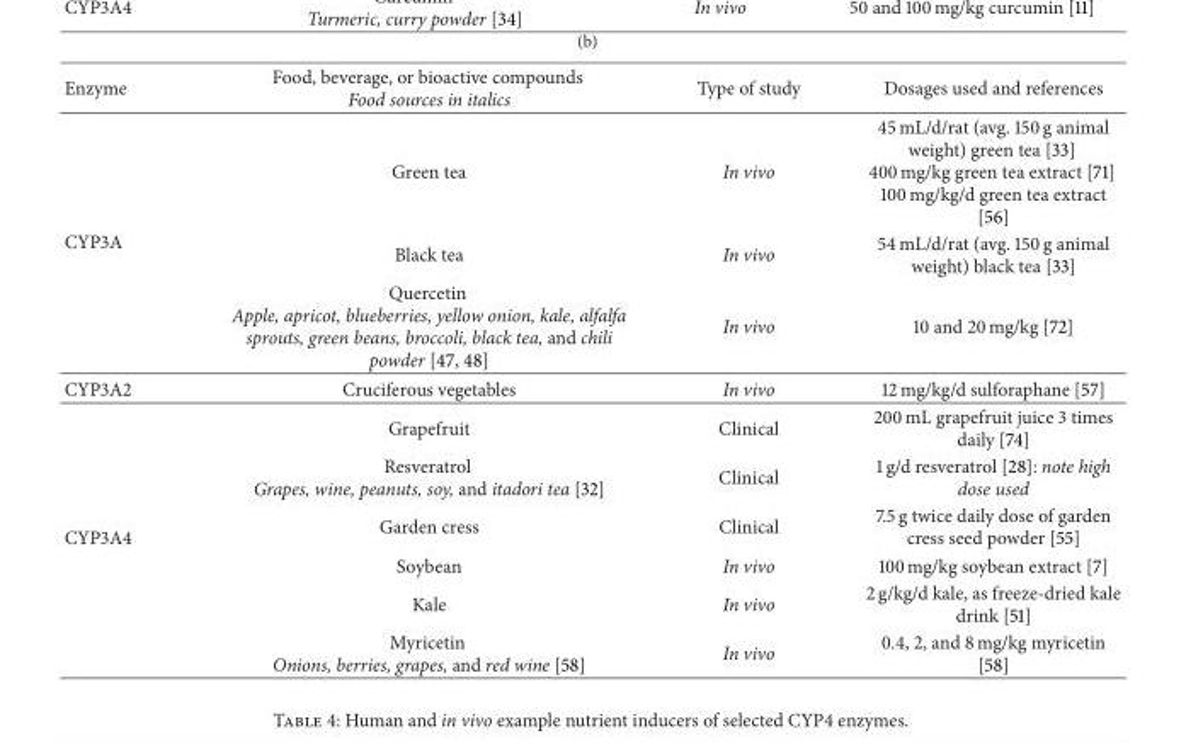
<table><thead><tr><td>Enzyme</td><td>Food, beverage, or bioactive compounds Food sources in italics</td><td>Type of study</td><td>Dosages used and references</td></tr></thead><tbody><tr><td rowspan="3">CYP3A</td><td>Green tea</td><td>In vivo</td><td>45 mL/d/rat (avg. 150 g animal weight) green tea [33] 400 mg/kg green tea extract [71] 100 mg/kg/d green tea extract [56]</td></tr><tr><td>Black tea</td><td>In vivo</td><td>54 mL/d/rat (avg. 150 g animal weight) black tea [33]</td></tr><tr><td>Quercetin Apple, apricot, blueberries, yellow onion, kale, alfalfa sprouts, green beans, broccoli, black tea, and chili powder [47, 48]</td><td>In vivo</td><td>10 and 20 mg/kg [72]</td></tr><tr><td rowspan="3">CYP3A2</td><td>Cruciferous vegetables</td><td>In vivo</td><td>12 mg/kg/d sulforaphane [57]</td></tr><tr><td>Grapefruit</td><td>Clinical</td><td>200 mL grapefruit juice 3 times daily [74]</td></tr><tr><td>Resveratrol Grapes, wine, peanuts, soy, and itadori tea [32]</td><td>Clinical</td><td>1 g/d resveratrol [28]: note high dose used</td></tr><tr><td rowspan="4">CYP3A4</td><td>Garden cress</td><td>Clinical</td><td>7.5 g twice daily dose of garden cress seed powder [55]</td></tr><tr><td>Soybean</td><td>In vivo</td><td>100 mg/kg soybean extract [7]</td></tr><tr><td>Kale</td><td>In vivo</td><td>2 g/kg/d kale, as freeze-dried kale drink [51]</td></tr><tr><td>Myricetin Onions, berries, grapes, and red wine [58]</td><td>In vivo</td><td>0.4, 2, and 8 mg/kg myricetin [58]</td></tr></tbody></table>